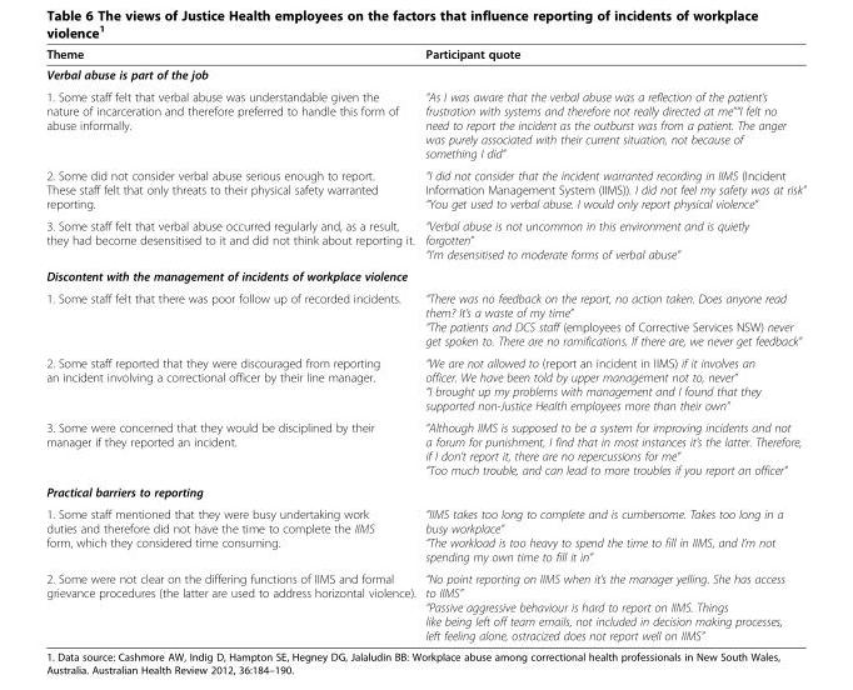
<table><thead><tr><td>Theme</td><td>Participant quote</td></tr></thead><tbody><tr><td colspan="2">Verbal abuse is part of the job</td></tr><tr><td>1. Some staff felt that verbal abuse was understandable given the nature of incarceration and therefore preferred to handle this form of abuse informally.</td><td>“As I was aware that the verbal abuse was a reflection of the patient’s frustration with systems and therefore not really directed at me”“I felt no need to report the incident as the outburst was from a patient. The anger was purely associated with their current situation, not because of something I did”</td></tr><tr><td>2. Some did not consider verbal abuse serious enough to report. These staff felt that only threats to their physical safety warranted reporting.</td><td>“I did not consider that the incident warranted recording in IIMS (Incident Information Management System (IIMS)). I did not feel my safety was at risk” “You get used to verbal abuse. I would only report physical violence”</td></tr><tr><td>3. Some staff felt that verbal abuse occurred regularly and, as a result, they had become desensitised to it and did not think about reporting it.</td><td>“Verbal abuse is not uncommon in this environment and is quietly forgotten” “I’m desensitised to moderate forms of verbal abuse”</td></tr><tr><td colspan="2">Discontent with the management of incidents of workplace violence</td></tr><tr><td>1. Some staff felt that there was poor follow up of recorded incidents.</td><td>“There was no feedback on the report, no action taken. Does anyone read them? It’s a waste of my time” “The patients and DCS staff (employees of Corrective Services NSW) never get spoken to. There are no ramifications. If there are, we never get feedback”</td></tr><tr><td>2. Some staff reported that they were discouraged from reporting an incident involving a correctional officer by their line manager.</td><td>“We are not allowed to (report an incident in IIMS) if it involves an officer. We have been told by upper management not to, never” “I brought up my problems with management and I found that they supported non-Justice Health employees more than their own”</td></tr><tr><td>3. Some were concerned that they would be disciplined by their manager if they reported an incident.</td><td>“Although IIMS is supposed to be a system for improving incidents and not a forum for punishment, I find that in most instances it’s the latter. Therefore, if I don’t report it, there are no repercussions for me” “Too much trouble, and can lead to more troubles if you report an officer”</td></tr><tr><td colspan="2">Practical barriers to reporting</td></tr><tr><td>1. Some staff mentioned that they were busy undertaking work duties and therefore did not have the time to complete the IIMS form, which they considered time consuming.</td><td>“IIMS takes too long to complete and is cumbersome. Takes too long in a busy workplace” “The workload is too heavy to spend the time to fill in IIMS, and I’m not spending my own time to fill it in”</td></tr><tr><td>2. Some were not clear on the differing functions of IIMS and formal grievance procedures (the latter are used to address horizontal violence).</td><td>“No point reporting on IIMS when it’s the manager yelling. She has access to IIMS” “Passive aggressive behaviour is hard to report on IIMS. Things like being left off team emails, not included in decision making processes, left feeling alone, ostracized does not report well on IIMS”</td></tr></tbody></table>